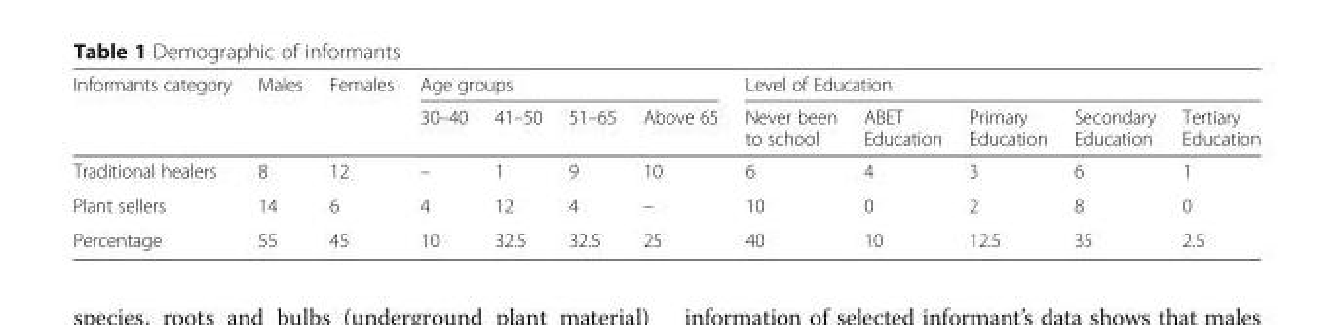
<table><thead><tr><td rowspan="2">Informants category</td><td rowspan="2">Males</td><td rowspan="2">Females</td><td colspan="4">Age groups</td><td colspan="5">Level of Education</td></tr><tr><td>30–40</td><td>41–50</td><td>51–65</td><td>Above 65</td><td>Never been to school</td><td>ABET Education</td><td>Primary Education</td><td>Secondary Education</td><td>Tertiary Education</td></tr></thead><tbody><tr><td>Traditional healers</td><td>8</td><td>12</td><td>–</td><td>1</td><td>9</td><td>10</td><td>6</td><td>4</td><td>3</td><td>6</td><td>1</td></tr><tr><td>Plant sellers</td><td>14</td><td>6</td><td>4</td><td>12</td><td>4</td><td>–</td><td>10</td><td>0</td><td>2</td><td>8</td><td>0</td></tr><tr><td>Percentage</td><td>55</td><td>45</td><td>10</td><td>32.5</td><td>32.5</td><td>25</td><td>40</td><td>10</td><td>12.5</td><td>35</td><td>2.5</td></tr></tbody></table>